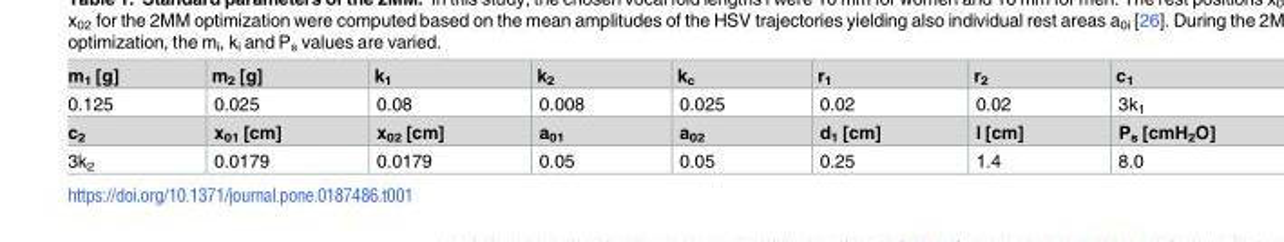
<table><thead><tr><td>m<sub>1</sub> [g]</td><td>m<sub>2</sub> [g]</td><td>k<sub>1</sub></td><td>k<sub>2</sub></td><td>k<sub>c</sub></td><td>r<sub>1</sub></td><td>r<sub>2</sub></td><td>c<sub>1</sub></td></tr></thead><tbody><tr><td>0.125</td><td>0.025</td><td>0.08</td><td>0.008</td><td>0.025</td><td>0.02</td><td>0.02</td><td>3k<sub>1</sub></td></tr><tr><td>c<sub>2</sub></td><td>x<sub>01</sub> [cm]</td><td>x<sub>02</sub> [cm]</td><td>a<sub>01</sub></td><td>a<sub>02</sub></td><td>d<sub>1</sub> [cm]</td><td>l [cm]</td><td>P<sub>s</sub> [cmH<sub>2</sub>O]</td></tr><tr><td>3k<sub>2</sub></td><td>0.0179</td><td>0.0179</td><td>0.05</td><td>0.05</td><td>0.25</td><td>1.4</td><td>8.0</td></tr></tbody></table>